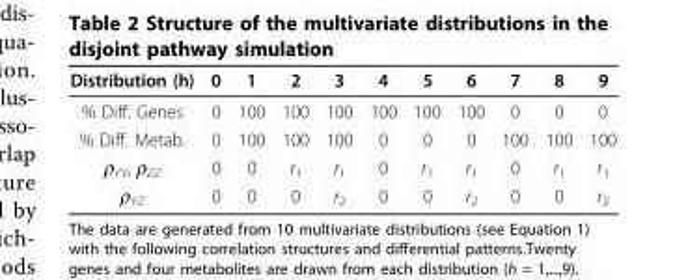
<table><thead><tr><td>Distribution (h)</td><td>0</td><td>1</td><td>2</td><td>3</td><td>4</td><td>5</td><td>6</td><td>7</td><td>8</td><td>9</td></tr></thead><tbody><tr><td>% Diff. Genes</td><td>0</td><td>100</td><td>100</td><td>100</td><td>100</td><td>100</td><td>100</td><td>0</td><td>0</td><td>0</td></tr><tr><td>% Diff. Metab.</td><td>0</td><td>100</td><td>100</td><td>100</td><td>0</td><td>0</td><td>0</td><td>100</td><td>100</td><td>100</td></tr><tr><td>ρ<sub>YY</sub>, ρ<sub>ZZ</sub></td><td>0</td><td>0</td><td>r<sub>1</sub></td><td>r<sub>1</sub></td><td>0</td><td>r<sub>1</sub></td><td>r<sub>1</sub></td><td>0</td><td>r<sub>1</sub></td><td>r<sub>1</sub></td></tr><tr><td>ρ<sub>YZ</sub></td><td>0</td><td>0</td><td>0</td><td>r<sub>2</sub></td><td>0</td><td>0</td><td>r<sub>2</sub></td><td>0</td><td>0</td><td>r<sub>2</sub></td></tr></tbody></table>